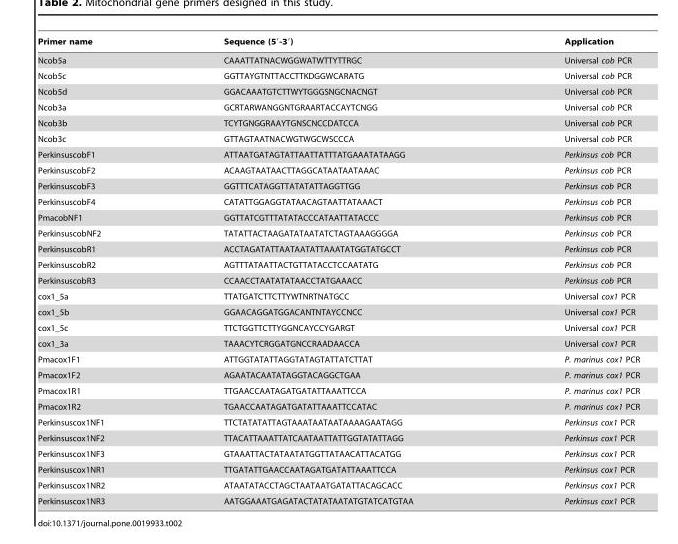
<table><thead><tr><td>Primer name</td><td>Sequence (5′-3′)</td><td>Application</td></tr></thead><tbody><tr><td>Ncob5a</td><td>CAAATTATNACWGGWATWTTYTTRGC</td><td>Universal cob PCR</td></tr><tr><td>Ncob5c</td><td>GGTTAYGTNTTACCTTKDGGWCARATG</td><td>Universal cob PCR</td></tr><tr><td>Ncob5d</td><td>GGACAAATGTCTTWYTGGGSNGCNACNGT</td><td>Universal cob PCR</td></tr><tr><td>Ncob3a</td><td>GCRTARWANGGNTGRAARTACCAYTCNGG</td><td>Universal cob PCR</td></tr><tr><td>Ncob3b</td><td>TCYTGNGGRAAYTGNSCNCCDATCCA</td><td>Universal cob PCR</td></tr><tr><td>Ncob3c</td><td>GTTAGTAATNACWGTWGCWSCCCA</td><td>Universal cob PCR</td></tr><tr><td>PerkinsuscobF1</td><td>ATTAATGATAGTATTAATTATTTATGAAATATAAGG</td><td>Perkinsus cob PCR</td></tr><tr><td>PerkinsuscobF2</td><td>ACAAGTAATAACTTAGGCATAATAATAAAC</td><td>Perkinsus cob PCR</td></tr><tr><td>PerkinsuscobF3</td><td>GGTTTCATAGGTTATATATTAGGTTGG</td><td>Perkinsus cob PCR</td></tr><tr><td>PerkinsuscobF4</td><td>CATATTGGAGGTATAACAGTAATTATAAACT</td><td>Perkinsus cob PCR</td></tr><tr><td>PmacobNF1</td><td>GGTTATCGTTTATATACCCATAATTATACCC</td><td>Perkinsus cob PCR</td></tr><tr><td>PerkinsuscobNF2</td><td>TATATTACTAAGATATAATATCTAGTAAAGGGGA</td><td>Perkinsus cob PCR</td></tr><tr><td>PerkinsuscobR1</td><td>ACCTAGATATTAATAATATTAAATATGGTATGCCT</td><td>Perkinsus cob PCR</td></tr><tr><td>PerkinsuscobR2</td><td>AGTTTATAATTACTGTTATACCTCCAATATG</td><td>Perkinsus cob PCR</td></tr><tr><td>PerkinsuscobR3</td><td>CCAACCTAATATATAACCTATGAAACC</td><td>Perkinsus cob PCR</td></tr><tr><td>cox1_5a</td><td>TTATGATCTTCTTYWTNRTNATGCC</td><td>Universal cox1 PCR</td></tr><tr><td>cox1_5b</td><td>GGAACAGGATGGACANTNTAYCCNCC</td><td>Universal cox1 PCR</td></tr><tr><td>cox1_5c</td><td>TTCTGGTTCTTYGGNCAYCCYGARGT</td><td>Universal cox1 PCR</td></tr><tr><td>cox1_3a</td><td>TAAACYTCRGGATGNCCRAADAACCA</td><td>Universal cox1 PCR</td></tr><tr><td>Pmacox1F1</td><td>ATTGGTATATTAGGTATAGTATTATCTTAT</td><td>P. marinus cox1 PCR</td></tr><tr><td>Pmacox1F2</td><td>AGAATACAATATAGGTACAGGCTGAA</td><td>P. marinus cox1 PCR</td></tr><tr><td>Pmacox1R1</td><td>TTGAACCAATAGATGATATTAAATTCCA</td><td>P. marinus cox1 PCR</td></tr><tr><td>Pmacox1R2</td><td>TGAACCAATAGATGATATTAAATTCCATAC</td><td>P. marinus cox1 PCR</td></tr><tr><td>Perkinsuscox1NF1</td><td>TTCTATATATTAGTAAATAATAATAAAAGAATAGG</td><td>Perkinsus cox1 PCR</td></tr><tr><td>Perkinsuscox1NF2</td><td>TTACATTAAATTATCAATAATTATTGGTATATTAGG</td><td>Perkinsus cox1 PCR</td></tr><tr><td>Perkinsuscox1NF3</td><td>GTAAATTACTATAATATGGTTATAACATTACATGG</td><td>Perkinsus cox1 PCR</td></tr><tr><td>Perkinsuscox1NR1</td><td>TTGATATTGAACCAATAGATGATATTAAATTCCA</td><td>Perkinsus cox1 PCR</td></tr><tr><td>Perkinsuscox1NR2</td><td>ATAATATACCTAGCTAATAATGATATTACAGCACC</td><td>Perkinsus cox1 PCR</td></tr><tr><td>Perkinsuscox1NR3</td><td>AATGGAAATGAGATACTATATAATATGTATCATGTAA</td><td>Perkinsus cox1 PCR</td></tr></tbody></table>